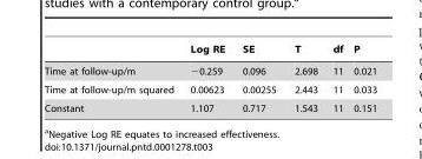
<table><thead><tr><td></td><td>Log RE</td><td>SE</td><td>T</td><td>df</td><td>P</td></tr></thead><tbody><tr><td>Time at follow-up/m</td><td>−0.259</td><td>0.096</td><td>2.698</td><td>11</td><td>0.021</td></tr><tr><td>Time at follow-up/m squared</td><td>0.00623</td><td>0.00255</td><td>2.443</td><td>11</td><td>0.033</td></tr><tr><td>Constant</td><td>1.107</td><td>0.717</td><td>1.543</td><td>11</td><td>0.151</td></tr></tbody></table>